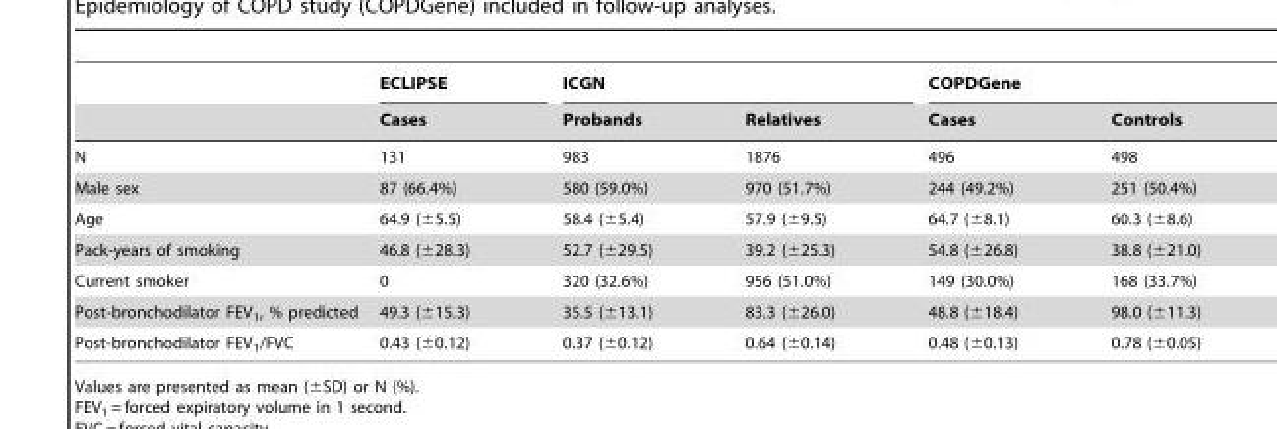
<table><thead><tr><td rowspan="2"></td><td rowspan="2">ECLIPSE Cases</td><td colspan="2">ICGN</td><td colspan="2">COPDGene</td></tr><tr><td>Probands</td><td>Relatives</td><td>Cases</td><td>Controls</td></tr></thead><tbody><tr><td>N</td><td>131</td><td>983</td><td>1876</td><td>496</td><td>498</td></tr><tr><td>Male sex</td><td>87 (66.4%)</td><td>580 (59.0%)</td><td>970 (51.7%)</td><td>244 (49.2%)</td><td>251 (50.4%)</td></tr><tr><td>Age</td><td>64.9 (±5.5)</td><td>58.4 (±5.4)</td><td>57.9 (±9.5)</td><td>64.7 (±8.1)</td><td>60.3 (±8.6)</td></tr><tr><td>Pack-years of smoking</td><td>46.8 (±28.3)</td><td>52.7 (±29.5)</td><td>39.2 (±25.3)</td><td>54.8 (±26.8)</td><td>38.8 (±21.0)</td></tr><tr><td>Current smoker</td><td>0</td><td>320 (32.6%)</td><td>956 (51.0%)</td><td>149 (30.0%)</td><td>168 (33.7%)</td></tr><tr><td>Post-bronchodilator FEV<sub>1</sub>, % predicted</td><td>49.3 (±15.3)</td><td>35.5 (±13.1)</td><td>83.3 (±26.0)</td><td>48.8 (±18.4)</td><td>98.0 (±11.3)</td></tr><tr><td>Post-bronchodilator FEV<sub>1</sub>/FVC</td><td>0.43 (±0.12)</td><td>0.37 (±0.12)</td><td>0.64 (±0.14)</td><td>0.48 (±0.13)</td><td>0.78 (±0.05)</td></tr></tbody></table>